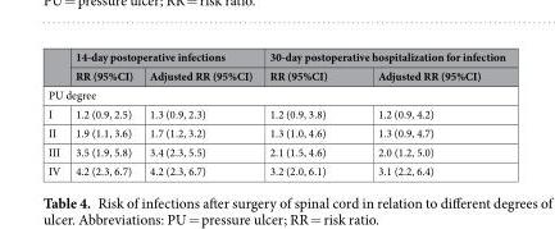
<table><thead><tr><td rowspan="2"></td><td colspan="2">14-day postoperative infections</td><td colspan="2">30-day postoperative hospitalization for infection</td></tr><tr><td>RR (95%CI)</td><td>Adjusted RR (95%CI)</td><td>RR (95%CI)</td><td>Adjusted RR (95%CI)</td></tr></thead><tbody><tr><td colspan="5">PU degree</td></tr><tr><td>I</td><td>1.2 (0.9, 2.5)</td><td>1.3 (0.9, 2.3)</td><td>1.2 (0.9, 3.8)</td><td>1.2 (0.9, 4.2)</td></tr><tr><td>II</td><td>1.9 (1.1, 3.6)</td><td>1.7 (1.2, 3.2)</td><td>1.3 (1.0, 4.6)</td><td>1.3 (0.9, 4.7)</td></tr><tr><td>III</td><td>3.5 (1.9, 5.8)</td><td>3.4 (2.3, 5.5)</td><td>2.1 (1.5, 4.6)</td><td>2.0 (1.2, 5.0)</td></tr><tr><td>IV</td><td>4.2 (2.3, 6.7)</td><td>4.2 (2.3, 6.7)</td><td>3.2 (2.0, 6.1)</td><td>3.1 (2.2, 6.4)</td></tr></tbody></table>